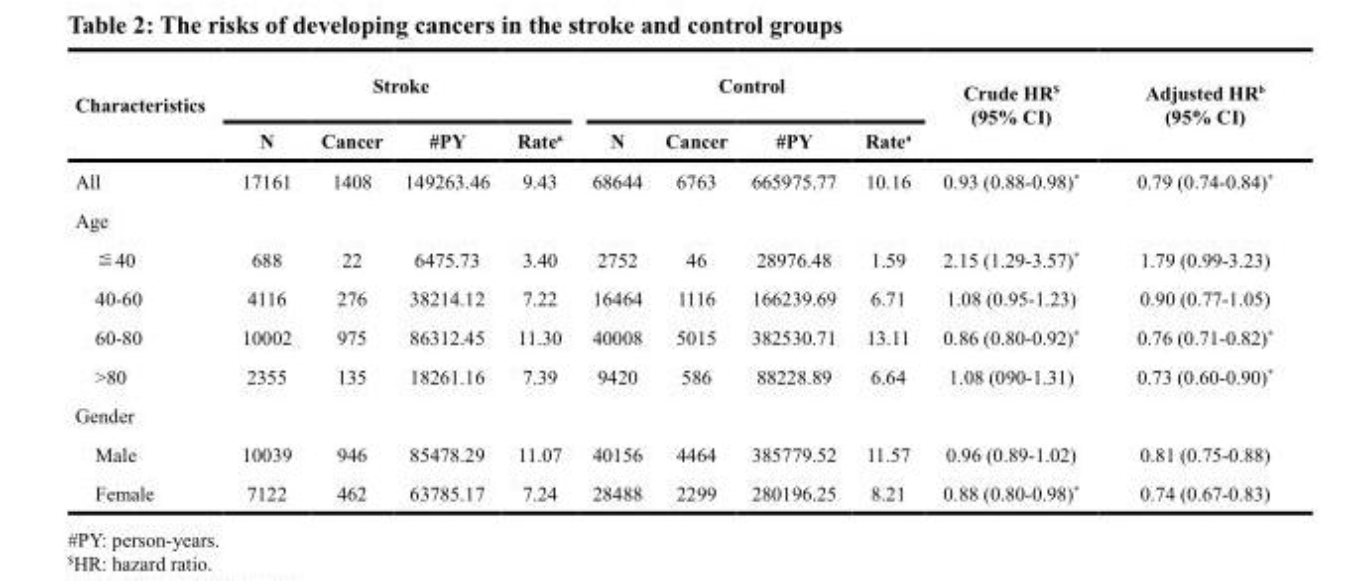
<table><thead><tr><td rowspan="2">Characteristics</td><td colspan="4">Stroke</td><td colspan="4">Control</td><td rowspan="2">Crude HR<sup>$</sup> (95% CI)</td><td rowspan="2">Adjusted HR<sup>b</sup> (95% CI)</td></tr><tr><td>N</td><td>Cancer</td><td>#PY</td><td>Rate<sup>a</sup></td><td>N</td><td>Cancer</td><td>#PY</td><td>Rate<sup>a</sup></td></tr></thead><tbody><tr><td>All</td><td>17161</td><td>1408</td><td>149263.46</td><td>9.43</td><td>68644</td><td>6763</td><td>665975.77</td><td>10.16</td><td>0.93 (0.88-0.98)*</td><td>0.79 (0.74-0.84)*</td></tr><tr><td colspan="11">Age</td></tr><tr><td>≦40</td><td>688</td><td>22</td><td>6475.73</td><td>3.40</td><td>2752</td><td>46</td><td>28976.48</td><td>1.59</td><td>2.15 (1.29-3.57)*</td><td>1.79 (0.99-3.23)</td></tr><tr><td>40-60</td><td>4116</td><td>276</td><td>38214.12</td><td>7.22</td><td>16464</td><td>1116</td><td>166239.69</td><td>6.71</td><td>1.08 (0.95-1.23)</td><td>0.90 (0.77-1.05)</td></tr><tr><td>60-80</td><td>10002</td><td>975</td><td>86312.45</td><td>11.30</td><td>40008</td><td>5015</td><td>382530.71</td><td>13.11</td><td>0.86 (0.80-0.92)*</td><td>0.76 (0.71-0.82)*</td></tr><tr><td>&gt;80</td><td>2355</td><td>135</td><td>18261.16</td><td>7.39</td><td>9420</td><td>586</td><td>88228.89</td><td>6.64</td><td>1.08 (090-1.31)</td><td>0.73 (0.60-0.90)*</td></tr><tr><td colspan="11">Gender</td></tr><tr><td>Male</td><td>10039</td><td>946</td><td>85478.29</td><td>11.07</td><td>40156</td><td>4464</td><td>385779.52</td><td>11.57</td><td>0.96 (0.89-1.02)</td><td>0.81 (0.75-0.88)</td></tr><tr><td>Female</td><td>7122</td><td>462</td><td>63785.17</td><td>7.24</td><td>28488</td><td>2299</td><td>280196.25</td><td>8.21</td><td>0.88 (0.80-0.98)*</td><td>0.74 (0.67-0.83)</td></tr></tbody></table>